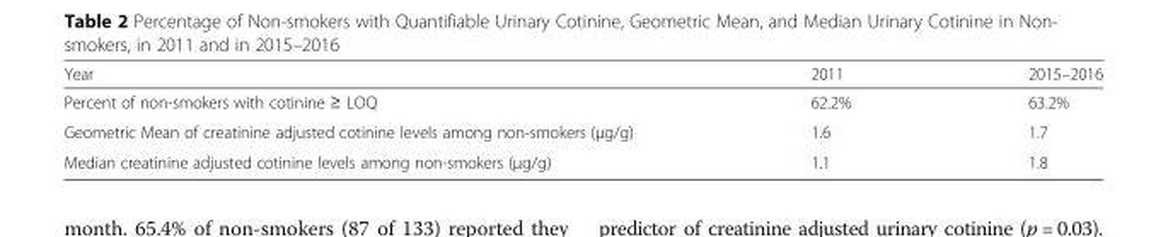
<table><thead><tr><td>Year</td><td>2011</td><td>2015–2016</td></tr></thead><tbody><tr><td>Percent of non-smokers with cotinine ≥ LOQ</td><td>62.2%</td><td>63.2%</td></tr><tr><td>Geometric Mean of creatinine adjusted cotinine levels among non-smokers (μg/g)</td><td>1.6</td><td>1.7</td></tr><tr><td>Median creatinine adjusted cotinine levels among non-smokers (μg/g)</td><td>1.1</td><td>1.8</td></tr></tbody></table>